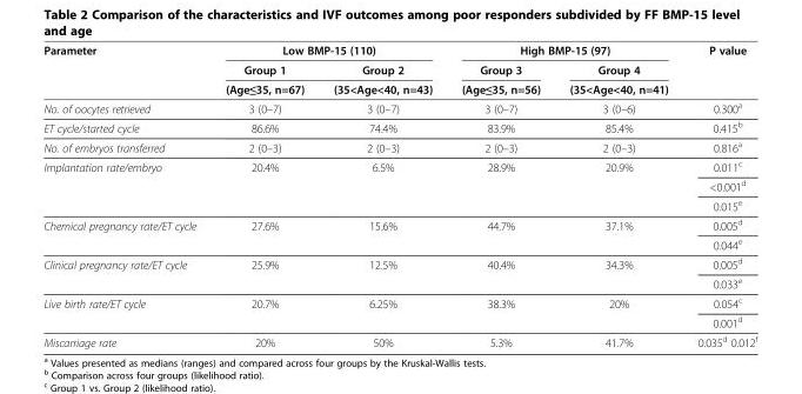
<table><thead><tr><td rowspan="3">Parameter</td><td colspan="2">Low BMP-15 (110)</td><td colspan="2">High BMP-15 (97)</td><td rowspan="3">P value</td></tr><tr><td rowspan="2">Group 1 (Age≤35, n=67)</td><td rowspan="2">Group 2 (35&lt;Age&lt;40, n=43)</td><td rowspan="2">Group 3 (Age≤35, n=56)</td><td rowspan="2">Group 4 (35&lt;Age&lt;40, n=41)</td></tr><tr></tr></thead><tbody><tr><td>No. of oocytes retrieved</td><td>3 (0–7)</td><td>3 (0–7)</td><td>3 (0–7)</td><td>3 (0–6)</td><td>0.300<sup>a</sup></td></tr><tr><td>ET cycle/started cycle</td><td>86.6%</td><td>74.4%</td><td>83.9%</td><td>85.4%</td><td>0.415<sup>b</sup></td></tr><tr><td>No. of embryos transferred</td><td>2 (0–3)</td><td>2 (0–3)</td><td>2 (0–3)</td><td>2 (0–3)</td><td>0.816<sup>a</sup></td></tr><tr><td rowspan="3">Implantation rate/embryo</td><td rowspan="3">20.4%</td><td rowspan="3">6.5%</td><td rowspan="3">28.9%</td><td rowspan="3">20.9%</td><td>0.011<sup>c</sup></td></tr><tr><td>&lt;0.001<sup>d</sup></td></tr><tr><td>0.015<sup>e</sup></td></tr><tr><td rowspan="2">Chemical pregnancy rate/ET cycle</td><td rowspan="2">27.6%</td><td rowspan="2">15.6%</td><td rowspan="2">44.7%</td><td rowspan="2">37.1%</td><td>0.005<sup>d</sup></td></tr><tr><td>0.044<sup>e</sup></td></tr><tr><td rowspan="2">Clinical pregnancy rate/ET cycle</td><td rowspan="2">25.9%</td><td rowspan="2">12.5%</td><td rowspan="2">40.4%</td><td rowspan="2">34.3%</td><td>0.005<sup>d</sup></td></tr><tr><td>0.033<sup>e</sup></td></tr><tr><td rowspan="2">Live birth rate/ET cycle</td><td rowspan="2">20.7%</td><td rowspan="2">6.25%</td><td rowspan="2">38.3%</td><td rowspan="2">20%</td><td>0.054<sup>c</sup></td></tr><tr><td>0.001<sup>d</sup></td></tr><tr><td>Miscarriage rate</td><td>20%</td><td>50%</td><td>5.3%</td><td>41.7%</td><td>0.035<sup>d</sup> 0.012<sup>f</sup></td></tr></tbody></table>